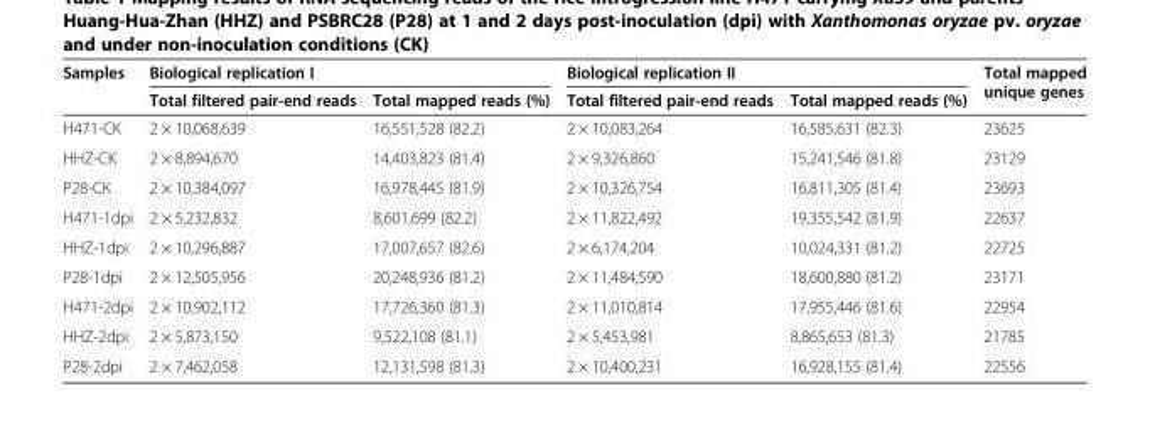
<table><thead><tr><td rowspan="2">Samples</td><td colspan="2">Biological replication I</td><td colspan="2">Biological replication II</td><td rowspan="2">Total mapped unique genes</td></tr><tr><td>Total filtered pair-end reads</td><td>Total mapped reads (%)</td><td>Total filtered pair-end reads</td><td>Total mapped reads (%)</td></tr></thead><tbody><tr><td>H471-CK</td><td>2 × 10,068,639</td><td>16,551,528 (82.2)</td><td>2 × 10,083,264</td><td>16,585,631 (82.3)</td><td>23625</td></tr><tr><td>HHZ-CK</td><td>2 × 8,894,670</td><td>14,403,823 (81.4)</td><td>2 × 9,326,860</td><td>15,241,546 (81.8)</td><td>23129</td></tr><tr><td>P28-CK</td><td>2 × 10,384,097</td><td>16,978,445 (81.9)</td><td>2 × 10,326,754</td><td>16,811,305 (81.4)</td><td>23693</td></tr><tr><td>H471-1dpi</td><td>2 × 5,232,832</td><td>8,601,699 (82.2)</td><td>2 × 11,822,492</td><td>19,355,542 (81.9)</td><td>22637</td></tr><tr><td>HHZ-1dpi</td><td>2 × 10,296,887</td><td>17,007,657 (82.6)</td><td>2 × 6,174,204</td><td>10,024,331 (81.2)</td><td>22725</td></tr><tr><td>P28-1dpi</td><td>2 × 12,505,956</td><td>20,248,936 (81.2)</td><td>2 × 11,484,590</td><td>18,600,880 (81.2)</td><td>23171</td></tr><tr><td>H471-2dpi</td><td>2 × 10,902,112</td><td>17,726,360 (81.3)</td><td>2 × 11,010,814</td><td>17,955,446 (81.6)</td><td>22954</td></tr><tr><td>HHZ-2dpi</td><td>2 × 5,873,150</td><td>9,522,108 (81.1)</td><td>2 × 5,453,981</td><td>8,865,653 (81.3)</td><td>21785</td></tr><tr><td>P28-2dpi</td><td>2 × 7,462,058</td><td>12,131,598 (81.3)</td><td>2 × 10,400,231</td><td>16,928,155 (81.4)</td><td>22556</td></tr></tbody></table>